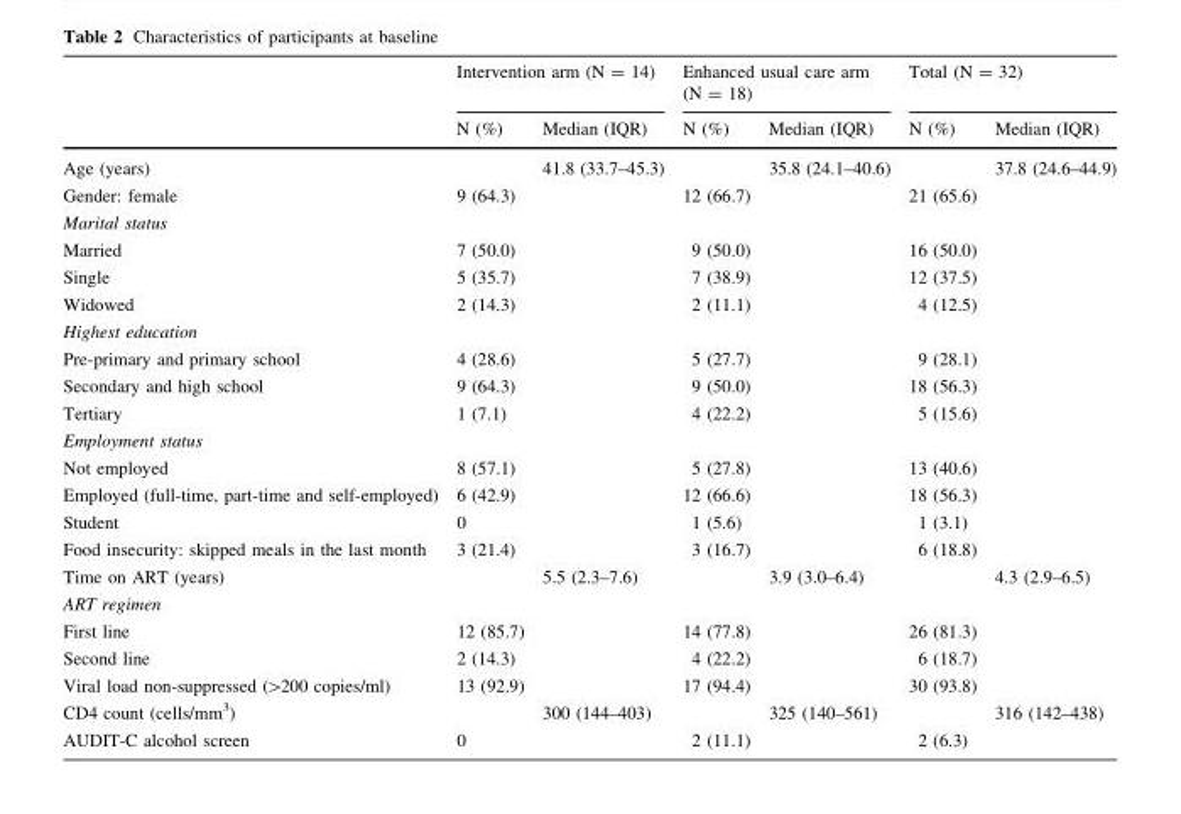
<table><thead><tr><td rowspan="2"></td><td colspan="2">Intervention arm (N = 14)</td><td colspan="2">Enhanced usual care arm (N = 18)</td><td colspan="2">Total (N = 32)</td></tr><tr><td>N (%)</td><td>Median (IQR)</td><td>N (%)</td><td>Median (IQR)</td><td>N (%)</td><td>Median (IQR)</td></tr></thead><tbody><tr><td>Age (years)</td><td></td><td>41.8 (33.7–45.3)</td><td></td><td>35.8 (24.1–40.6)</td><td></td><td>37.8 (24.6–44.9)</td></tr><tr><td>Gender: female</td><td>9 (64.3)</td><td></td><td>12 (66.7)</td><td></td><td>21 (65.6)</td><td></td></tr><tr><td colspan="7">Marital status</td></tr><tr><td>Married</td><td>7 (50.0)</td><td></td><td>9 (50.0)</td><td></td><td>16 (50.0)</td><td></td></tr><tr><td>Single</td><td>5 (35.7)</td><td></td><td>7 (38.9)</td><td></td><td>12 (37.5)</td><td></td></tr><tr><td>Widowed</td><td>2 (14.3)</td><td></td><td>2 (11.1)</td><td></td><td>4 (12.5)</td><td></td></tr><tr><td colspan="7">Highest education</td></tr><tr><td>Pre-primary and primary school</td><td>4 (28.6)</td><td></td><td>5 (27.7)</td><td></td><td>9 (28.1)</td><td></td></tr><tr><td>Secondary and high school</td><td>9 (64.3)</td><td></td><td>9 (50.0)</td><td></td><td>18 (56.3)</td><td></td></tr><tr><td>Tertiary</td><td>1 (7.1)</td><td></td><td>4 (22.2)</td><td></td><td>5 (15.6)</td><td></td></tr><tr><td colspan="7">Employment status</td></tr><tr><td>Not employed</td><td>8 (57.1)</td><td></td><td>5 (27.8)</td><td></td><td>13 (40.6)</td><td></td></tr><tr><td>Employed (full-time, part-time and self-employed)</td><td>6 (42.9)</td><td></td><td>12 (66.6)</td><td></td><td>18 (56.3)</td><td></td></tr><tr><td>Student</td><td>0</td><td></td><td>1 (5.6)</td><td></td><td>1 (3.1)</td><td></td></tr><tr><td>Food insecurity: skipped meals in the last month</td><td>3 (21.4)</td><td></td><td>3 (16.7)</td><td></td><td>6 (18.8)</td><td></td></tr><tr><td>Time on ART (years)</td><td></td><td>5.5 (2.3–7.6)</td><td></td><td>3.9 (3.0–6.4)</td><td></td><td>4.3 (2.9–6.5)</td></tr><tr><td colspan="7">ART regimen</td></tr><tr><td>First line</td><td>12 (85.7)</td><td></td><td>14 (77.8)</td><td></td><td>26 (81.3)</td><td></td></tr><tr><td>Second line</td><td>2 (14.3)</td><td></td><td>4 (22.2)</td><td></td><td>6 (18.7)</td><td></td></tr><tr><td>Viral load non-suppressed (&gt;200 copies/ml)</td><td>13 (92.9)</td><td></td><td>17 (94.4)</td><td></td><td>30 (93.8)</td><td></td></tr><tr><td>CD4 count (cells/mm<sup>3</sup>)</td><td></td><td>300 (144–403)</td><td></td><td>325 (140–561)</td><td></td><td>316 (142–438)</td></tr><tr><td>AUDIT-C alcohol screen</td><td>0</td><td></td><td>2 (11.1)</td><td></td><td>2 (6.3)</td><td></td></tr></tbody></table>